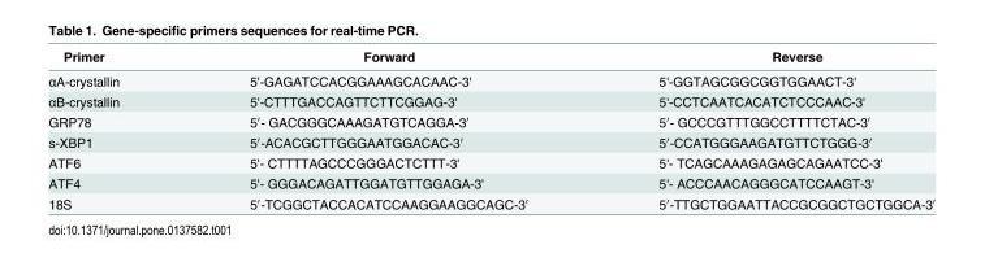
<table><thead><tr><td>Primer</td><td>Forward</td><td>Reverse</td></tr></thead><tbody><tr><td>αA-crystallin</td><td>5&#x27;-GAGATCCACGGAAAGCACAAC-3&#x27;</td><td>5&#x27;-GGTAGCGGCGGTGGAACT-3&#x27;</td></tr><tr><td>αB-crystallin</td><td>5&#x27;-CTTTGACCAGTTCTTCGGAG-3&#x27;</td><td>5&#x27;-CCTCAATCACATCTCCCAAC-3&#x27;</td></tr><tr><td>GRP78</td><td>5′- GACGGGCAAAGATGTCAGGA-3′</td><td>5′- GCCCGTTTGGCCTTTTCTAC-3′</td></tr><tr><td>s-XBP1</td><td>5′-ACACGCTTGGGAATGGACAC-3′</td><td>5′-CCATGGGAAGATGTTCTGGG-3′</td></tr><tr><td>ATF6</td><td>5&#x27;- CTTTTAGCCCGGGACTCTTT-3&#x27;</td><td>5&#x27;- TCAGCAAAGAGAGCAGAATCC-3&#x27;</td></tr><tr><td>ATF4</td><td>5&#x27;- GGGACAGATTGGATGTTGGAGA-3&#x27;</td><td>5&#x27;- ACCCAACAGGGCATCCAAGT-3&#x27;</td></tr><tr><td>18S</td><td>5′-TCGGCTACCACATCCAAGGAAGGCAGC-3′</td><td>5′-TTGCTGGAATTACCGCGGCTGCTGGCA-3′</td></tr></tbody></table>